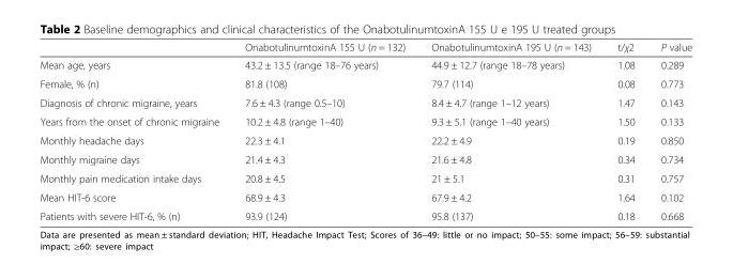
<table><thead><tr><td></td><td>OnabotulinumtoxinA 155 U (n = 132)</td><td>OnabotulinumtoxinA 195 U (n = 143)</td><td>t/χ2</td><td>P value</td></tr></thead><tbody><tr><td>Mean age, years</td><td>43.2 ± 13.5 (range 18–76 years)</td><td>44.9 ± 12.7 (range 18–78 years)</td><td>1.08</td><td>0.289</td></tr><tr><td>Female, % (n)</td><td>81.8 (108)</td><td>79.7 (114)</td><td>0.08</td><td>0.773</td></tr><tr><td>Diagnosis of chronic migraine, years</td><td>7.6 ± 4.3 (range 0.5–10)</td><td>8.4 ± 4.7 (range 1–12 years)</td><td>1.47</td><td>0.143</td></tr><tr><td>Years from the onset of chronic migraine</td><td>10.2 ± 4.8 (range 1–40)</td><td>9.3 ± 5.1 (range 1–40 years)</td><td>1.50</td><td>0.133</td></tr><tr><td>Monthly headache days</td><td>22.3 ± 4.1</td><td>22.2 ± 4.9</td><td>0.19</td><td>0.850</td></tr><tr><td>Monthly migraine days</td><td>21.4 ± 4.3</td><td>21.6 ± 4.8</td><td>0.34</td><td>0.734</td></tr><tr><td>Monthly pain medication intake days</td><td>20.8 ± 4.5</td><td>21 ± 5.1</td><td>0.31</td><td>0.757</td></tr><tr><td>Mean HIT-6 score</td><td>68.9 ± 4.3</td><td>67.9 ± 4.2</td><td>1.64</td><td>0.102</td></tr><tr><td>Patients with severe HIT-6, % (n)</td><td>93.9 (124)</td><td>95.8 (137)</td><td>0.18</td><td>0.668</td></tr></tbody></table>